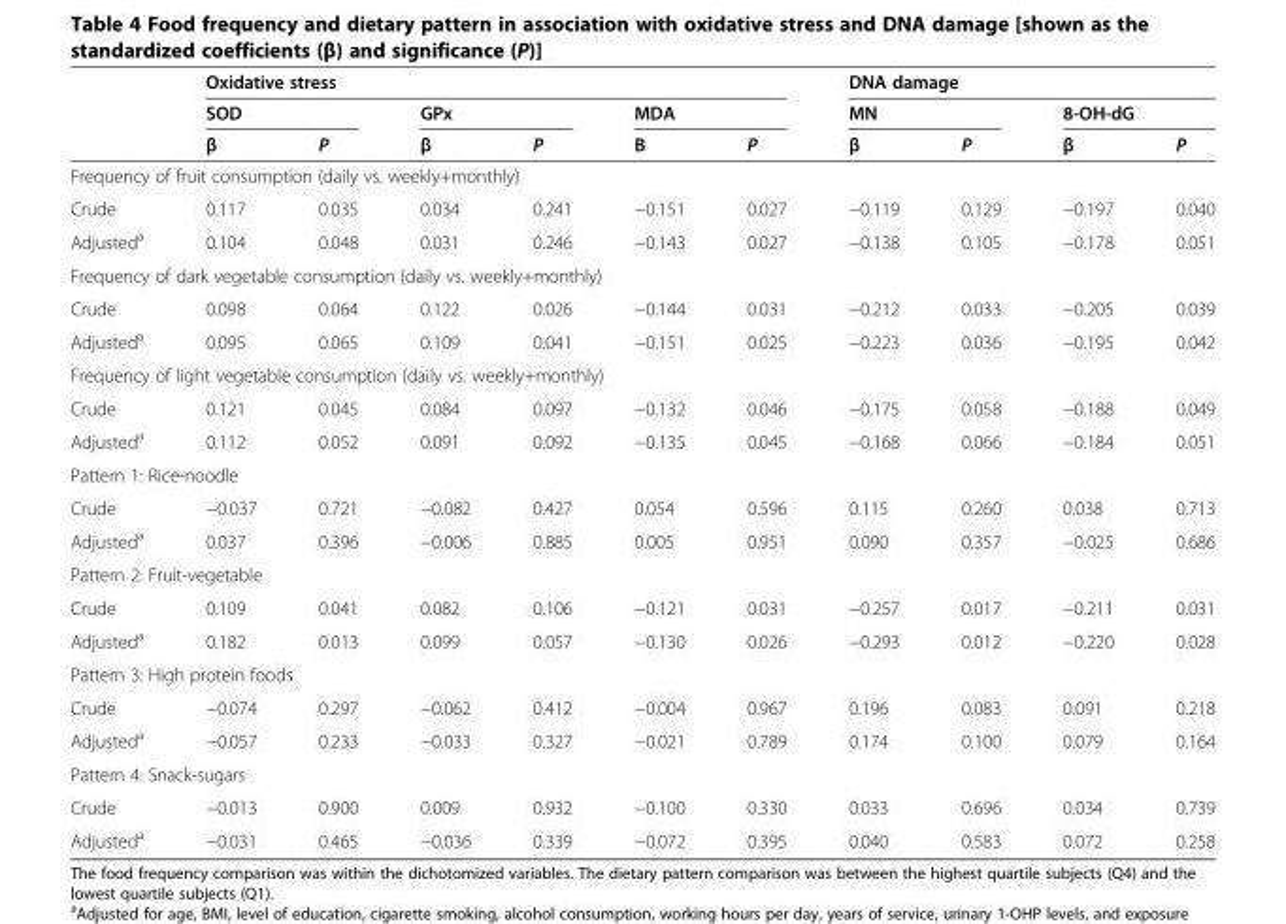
<table><thead><tr><td rowspan="3"></td><td colspan="6">Oxidative stress</td><td colspan="4">DNA damage</td></tr><tr><td colspan="2">SOD</td><td colspan="2">GPx</td><td colspan="2">MDA</td><td colspan="2">MN</td><td colspan="2">8-OH-dG</td></tr><tr><td>β</td><td>P</td><td>β</td><td>P</td><td>Β</td><td>P</td><td>β</td><td>P</td><td>β</td><td>P</td></tr></thead><tbody><tr><td colspan="11">Frequency of fruit consumption (daily vs. weekly+monthly)</td></tr><tr><td>Crude</td><td>0.117</td><td>0.035</td><td>0.034</td><td>0.241</td><td>−0.151</td><td>0.027</td><td>−0.119</td><td>0.129</td><td>−0.197</td><td>0.040</td></tr><tr><td>Adjusted<sup>a</sup></td><td>0.104</td><td>0.048</td><td>0.031</td><td>0.246</td><td>−0.143</td><td>0.027</td><td>−0.138</td><td>0.105</td><td>−0.178</td><td>0.051</td></tr><tr><td colspan="11">Frequency of dark vegetable consumption (daily vs. weekly+monthly)</td></tr><tr><td>Crude</td><td>0.098</td><td>0.064</td><td>0.122</td><td>0.026</td><td>−0.144</td><td>0.031</td><td>−0.212</td><td>0.033</td><td>−0.205</td><td>0.039</td></tr><tr><td>Adjusted<sup>a</sup></td><td>0.095</td><td>0.065</td><td>0.109</td><td>0.041</td><td>−0.151</td><td>0.025</td><td>−0.223</td><td>0.036</td><td>−0.195</td><td>0.042</td></tr><tr><td colspan="11">Frequency of light vegetable consumption (daily vs. weekly+monthly)</td></tr><tr><td>Crude</td><td>0.121</td><td>0.045</td><td>0.084</td><td>0.097</td><td>−0.132</td><td>0.046</td><td>−0.175</td><td>0.058</td><td>−0.188</td><td>0.049</td></tr><tr><td>Adjusted<sup>a</sup></td><td>0.112</td><td>0.052</td><td>0.091</td><td>0.092</td><td>−0.135</td><td>0.045</td><td>−0.168</td><td>0.066</td><td>−0.184</td><td>0.051</td></tr><tr><td colspan="11">Pattern 1: Rice-noodle</td></tr><tr><td>Crude</td><td>−0.037</td><td>0.721</td><td>−0.082</td><td>0.427</td><td>0.054</td><td>0.596</td><td>0.115</td><td>0.260</td><td>0.038</td><td>0.713</td></tr><tr><td>Adjusted<sup>a</sup></td><td>0.037</td><td>0.396</td><td>−0.006</td><td>0.885</td><td>0.005</td><td>0.951</td><td>0.090</td><td>0.357</td><td>−0.025</td><td>0.686</td></tr><tr><td colspan="11">Pattern 2: Fruit-vegetable</td></tr><tr><td>Crude</td><td>0.109</td><td>0.041</td><td>0.082</td><td>0.106</td><td>−0.121</td><td>0.031</td><td>−0.257</td><td>0.017</td><td>−0.211</td><td>0.031</td></tr><tr><td>Adjusted<sup>a</sup></td><td>0.182</td><td>0.013</td><td>0.099</td><td>0.057</td><td>−0.130</td><td>0.026</td><td>−0.293</td><td>0.012</td><td>−0.220</td><td>0.028</td></tr><tr><td colspan="11">Pattern 3: High protein foods</td></tr><tr><td>Crude</td><td>−0.074</td><td>0.297</td><td>−0.062</td><td>0.412</td><td>−0.004</td><td>0.967</td><td>0.196</td><td>0.083</td><td>0.091</td><td>0.218</td></tr><tr><td>Adjusted<sup>a</sup></td><td>−0.057</td><td>0.233</td><td>−0.033</td><td>0.327</td><td>−0.021</td><td>0.789</td><td>0.174</td><td>0.100</td><td>0.079</td><td>0.164</td></tr><tr><td colspan="11">Pattern 4: Snack-sugars</td></tr><tr><td>Crude</td><td>−0.013</td><td>0.900</td><td>0.009</td><td>0.932</td><td>−0.100</td><td>0.330</td><td>0.033</td><td>0.696</td><td>0.034</td><td>0.739</td></tr><tr><td>Adjusted<sup>a</sup></td><td>−0.031</td><td>0.465</td><td>−0.036</td><td>0.339</td><td>−0.072</td><td>0.395</td><td>0.040</td><td>0.583</td><td>0.072</td><td>0.258</td></tr></tbody></table>